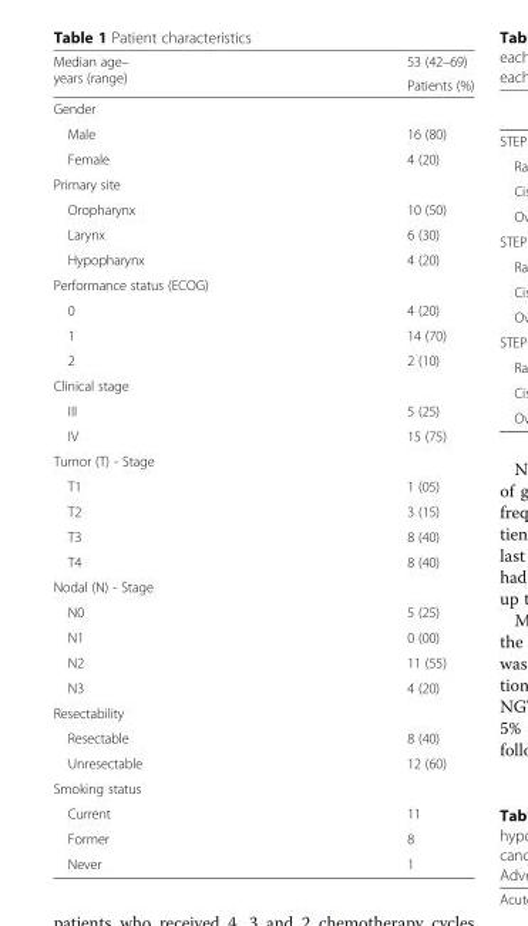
<table><thead><tr><td rowspan="2">Median age– years (range)</td><td rowspan="2">53 (42–69) Patients (%)</td></tr><tr></tr></thead><tbody><tr><td colspan="2">Gender</td></tr><tr><td>Male</td><td>16 (80)</td></tr><tr><td>Female</td><td>4 (20)</td></tr><tr><td colspan="2">Primary site</td></tr><tr><td>Oropharynx</td><td>10 (50)</td></tr><tr><td>Larynx</td><td>6 (30)</td></tr><tr><td>Hypopharynx</td><td>4 (20)</td></tr><tr><td colspan="2">Performance status (ECOG)</td></tr><tr><td>0</td><td>4 (20)</td></tr><tr><td>1</td><td>14 (70)</td></tr><tr><td>2</td><td>2 (10)</td></tr><tr><td colspan="2">Clinical stage</td></tr><tr><td>III</td><td>5 (25)</td></tr><tr><td>IV</td><td>15 (75)</td></tr><tr><td colspan="2">Tumor (T) - Stage</td></tr><tr><td>T1</td><td>1 (05)</td></tr><tr><td>T2</td><td>3 (15)</td></tr><tr><td>T3</td><td>8 (40)</td></tr><tr><td>T4</td><td>8 (40)</td></tr><tr><td colspan="2">Nodal (N) - Stage</td></tr><tr><td>N0</td><td>5 (25)</td></tr><tr><td>N1</td><td>0 (00)</td></tr><tr><td>N2</td><td>11 (55)</td></tr><tr><td>N3</td><td>4 (20)</td></tr><tr><td colspan="2">Resectability</td></tr><tr><td>Resectable</td><td>8 (40)</td></tr><tr><td>Unresectable</td><td>12 (60)</td></tr><tr><td colspan="2">Smoking status</td></tr><tr><td>Current</td><td>11</td></tr><tr><td>Former</td><td>8</td></tr><tr><td>Never</td><td>1</td></tr></tbody></table>